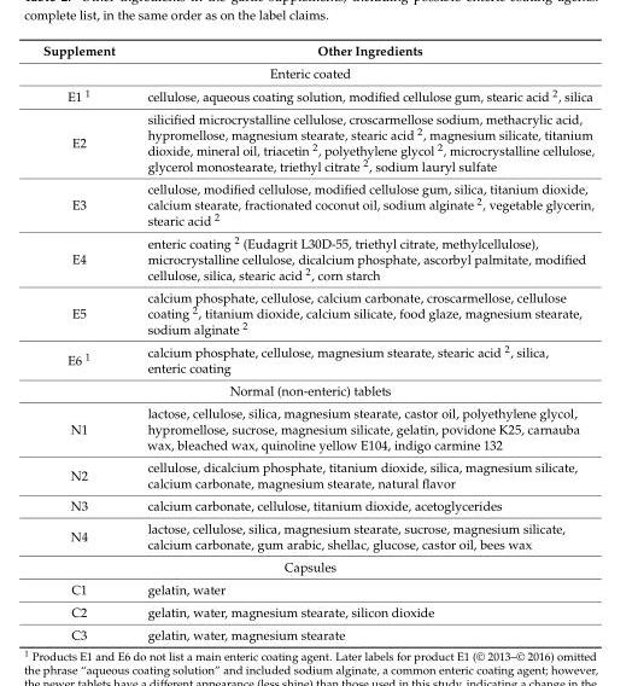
<table><thead><tr><td>Supplement</td><td>Other Ingredients</td></tr></thead><tbody><tr><td colspan="2">Enteric coated</td></tr><tr><td>E1 <sup>1</sup></td><td>cellulose, aqueous coating solution, modified cellulose gum, stearic acid <sup>2</sup>, silica</td></tr><tr><td>E2</td><td>silicified microcrystalline cellulose, croscarmellose sodium, methacrylic acid, hypromellose, magnesium stearate, stearic acid <sup>2</sup>, magnesium silicate, titanium dioxide, mineral oil, triacetin <sup>2</sup>, polyethylene glycol <sup>2</sup>, microcrystalline cellulose, glycerol monostearate, triethyl citrate <sup>2</sup>, sodium lauryl sulfate</td></tr><tr><td>E3</td><td>cellulose, modified cellulose, modified cellulose gum, silica, titanium dioxide, calcium stearate, fractionated coconut oil, sodium alginate <sup>2</sup>, vegetable glycerin, stearic acid <sup>2</sup></td></tr><tr><td>E4</td><td>enteric coating <sup>2</sup> (Eudagrit L30D-55, triethyl citrate, methylcellulose), microcrystalline cellulose, dicalcium phosphate, ascorbyl palmitate, modified cellulose, silica, stearic acid <sup>2</sup>, corn starch</td></tr><tr><td>E5</td><td>calcium phosphate, cellulose, calcium carbonate, croscarmellose, cellulose coating <sup>2</sup>, titanium dioxide, calcium silicate, food glaze, magnesium stearate, sodium alginate <sup>2</sup></td></tr><tr><td>E6 <sup>1</sup></td><td>calcium phosphate, cellulose, magnesium stearate, stearic acid <sup>2</sup>, silica, enteric coating</td></tr><tr><td colspan="2">Normal (non-enteric) tablets</td></tr><tr><td>N1</td><td>lactose, cellulose, silica, magnesium stearate, castor oil, polyethylene glycol, hypromellose, sucrose, magnesium silicate, gelatin, povidone K25, carnauba wax, bleached wax, quinoline yellow E104, indigo carmine 132</td></tr><tr><td>N2</td><td>cellulose, dicalcium phosphate, titanium dioxide, silica, magnesium silicate, calcium carbonate, magnesium stearate, natural flavor</td></tr><tr><td>N3</td><td>calcium carbonate, cellulose, titanium dioxide, acetoglycerides</td></tr><tr><td>N4</td><td>lactose, cellulose, silica, magnesium stearate, sucrose, magnesium silicate, calcium carbonate, gum arabic, shellac, glucose, castor oil, bees wax</td></tr><tr><td colspan="2">Capsules</td></tr><tr><td>C1</td><td>gelatin, water</td></tr><tr><td>C2</td><td>gelatin, water, magnesium stearate, silicon dioxide</td></tr><tr><td>C3</td><td>gelatin, water, magnesium stearate</td></tr></tbody></table>